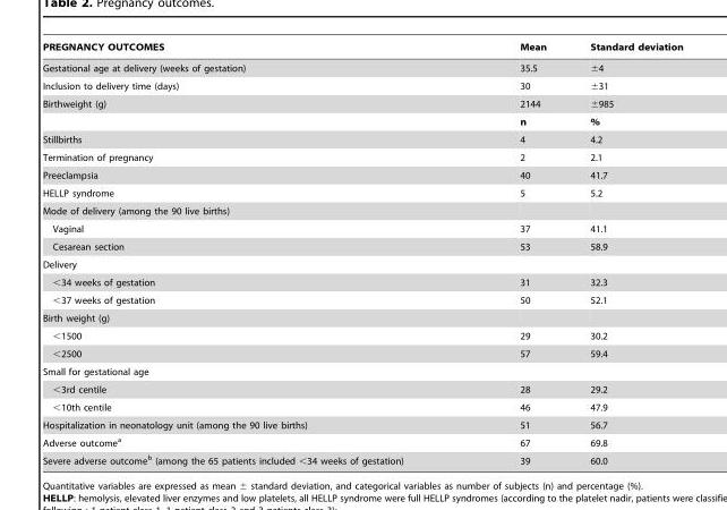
<table><thead><tr><td>PREGNANCY OUTCOMES</td><td>Mean</td><td>Standard deviation</td></tr></thead><tbody><tr><td>Gestational age at delivery (weeks of gestation)</td><td>35.5</td><td>±4</td></tr><tr><td>Inclusion to delivery time (days)</td><td>30</td><td>±31</td></tr><tr><td rowspan="2">Birthweight (g)</td><td>2144</td><td>±985</td></tr><tr><td>n</td><td>%</td></tr><tr><td>Stillbirths</td><td>4</td><td>4.2</td></tr><tr><td>Termination of pregnancy</td><td>2</td><td>2.1</td></tr><tr><td>Preeclampsia</td><td>40</td><td>41.7</td></tr><tr><td>HELLP syndrome</td><td>5</td><td>5.2</td></tr><tr><td colspan="3">Mode of delivery (among the 90 live births)</td></tr><tr><td>Vaginal</td><td>37</td><td>41.1</td></tr><tr><td>Cesarean section</td><td>53</td><td>58.9</td></tr><tr><td colspan="3">Delivery</td></tr><tr><td>&lt;34 weeks of gestation</td><td>31</td><td>32.3</td></tr><tr><td>&lt;37 weeks of gestation</td><td>50</td><td>52.1</td></tr><tr><td colspan="3">Birth weight (g)</td></tr><tr><td>&lt;1500</td><td>29</td><td>30.2</td></tr><tr><td>&lt;2500</td><td>57</td><td>59.4</td></tr><tr><td colspan="3">Small for gestational age</td></tr><tr><td>&lt;3rd centile</td><td>28</td><td>29.2</td></tr><tr><td>&lt;10th centile</td><td>46</td><td>47.9</td></tr><tr><td>Hospitalization in neonatology unit (among the 90 live births)</td><td>51</td><td>56.7</td></tr><tr><td>Adverse outcome<sup>a</sup></td><td>67</td><td>69.8</td></tr><tr><td>Severe adverse outcome<sup>b</sup> (among the 65 patients included &lt;34 weeks of gestation)</td><td>39</td><td>60.0</td></tr></tbody></table>